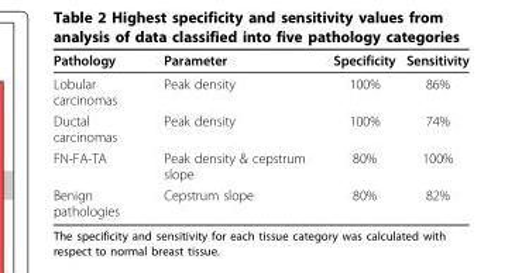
<table><thead><tr><td>Pathology</td><td>Parameter</td><td>Specificity</td><td>Sensitivity</td></tr></thead><tbody><tr><td>Lobular carcinomas</td><td>Peak density</td><td>100%</td><td>86%</td></tr><tr><td>Ductal carcinomas</td><td>Peak density</td><td>100%</td><td>74%</td></tr><tr><td>FN-FA-TA</td><td>Peak density &amp; cepstrum slope</td><td>80%</td><td>100%</td></tr><tr><td>Benign pathologies</td><td>Cepstrum slope</td><td>80%</td><td>82%</td></tr></tbody></table>